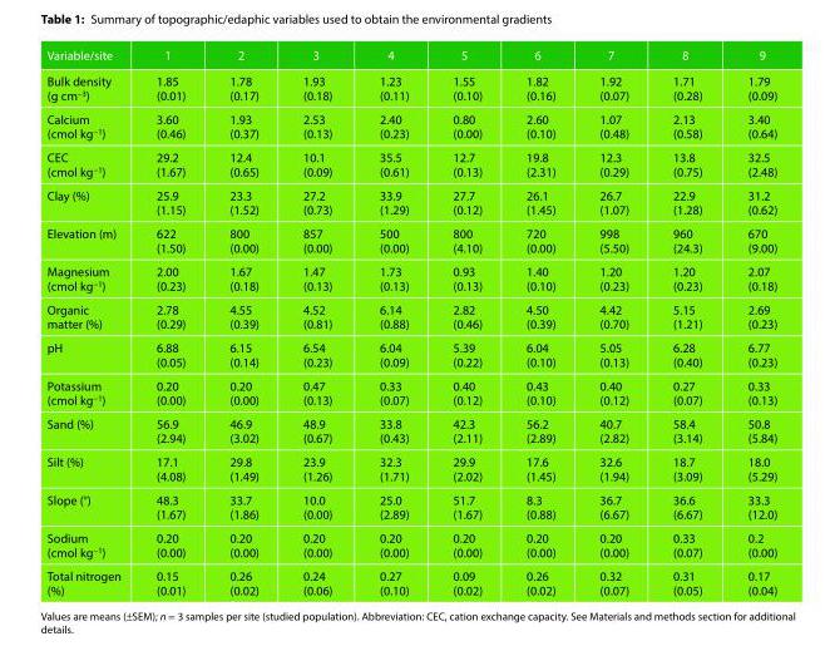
<table><thead><tr><td>Variable/site</td><td>1</td><td>2</td><td>3</td><td>4</td><td>5</td><td>6</td><td>7</td><td>8</td><td>9</td></tr></thead><tbody><tr><td>Bulk density (g cm<sup>−3</sup>)</td><td>1.85 (0.01)</td><td>1.78 (0.17)</td><td>1.93 (0.18)</td><td>1.23 (0.11)</td><td>1.55 (0.10)</td><td>1.82 (0.16)</td><td>1.92 (0.07)</td><td>1.71 (0.28)</td><td>1.79 (0.09)</td></tr><tr><td>Calcium (cmol kg<sup>−1</sup>)</td><td>3.60 (0.46)</td><td>1.93 (0.37)</td><td>2.53 (0.13)</td><td>2.40 (0.23)</td><td>0.80 (0.00)</td><td>2.60 (0.10)</td><td>1.07 (0.48)</td><td>2.13 (0.58)</td><td>3.40 (0.64)</td></tr><tr><td>CEC (cmol kg<sup>−1</sup>)</td><td>29.2 (1.67)</td><td>12.4 (0.65)</td><td>10.1 (0.09)</td><td>35.5 (0.61)</td><td>12.7 (0.13)</td><td>19.8 (2.31)</td><td>12.3 (0.29)</td><td>13.8 (0.75)</td><td>32.5 (2.48)</td></tr><tr><td>Clay (%)</td><td>25.9 (1.15)</td><td>23.3 (1.52)</td><td>27.2 (0.73)</td><td>33.9 (1.29)</td><td>27.7 (0.12)</td><td>26.1 (1.45)</td><td>26.7 (1.07)</td><td>22.9 (1.28)</td><td>31.2 (0.62)</td></tr><tr><td>Elevation (m)</td><td>622 (1.50)</td><td>800 (0.00)</td><td>857 (0.00)</td><td>500 (0.00)</td><td>800 (4.10)</td><td>720 (0.00)</td><td>998 (5.50)</td><td>960 (24.3)</td><td>670 (9.00)</td></tr><tr><td>Magnesium (cmol kg<sup>−1</sup>)</td><td>2.00 (0.23)</td><td>1.67 (0.18)</td><td>1.47 (0.13)</td><td>1.73 (0.13)</td><td>0.93 (0.13)</td><td>1.40 (0.10)</td><td>1.20 (0.23)</td><td>1.20 (0.23)</td><td>2.07 (0.18)</td></tr><tr><td>Organic matter (%)</td><td>2.78 (0.29)</td><td>4.55 (0.39)</td><td>4.52 (0.81)</td><td>6.14 (0.88)</td><td>2.82 (0.46)</td><td>4.50 (0.39)</td><td>4.42 (0.70)</td><td>5.15 (1.21)</td><td>2.69 (0.23)</td></tr><tr><td>pH</td><td>6.88 (0.05)</td><td>6.15 (0.14)</td><td>6.54 (0.23)</td><td>6.04 (0.09)</td><td>5.39 (0.22)</td><td>6.04 (0.10)</td><td>5.05 (0.13)</td><td>6.28 (0.40)</td><td>6.77 (0.23)</td></tr><tr><td>Potassium (cmol kg<sup>−1</sup>)</td><td>0.20 (0.00)</td><td>0.20 (0.00)</td><td>0.47 (0.13)</td><td>0.33 (0.07)</td><td>0.40 (0.12)</td><td>0.43 (0.10)</td><td>0.40 (0.12)</td><td>0.27 (0.07)</td><td>0.33 (0.13)</td></tr><tr><td>Sand (%)</td><td>56.9 (2.94)</td><td>46.9 (3.02)</td><td>48.9 (0.67)</td><td>33.8 (0.43)</td><td>42.3 (2.11)</td><td>56.2 (2.89)</td><td>40.7 (2.82)</td><td>58.4 (3.14)</td><td>50.8 (5.84)</td></tr><tr><td>Silt (%)</td><td>17.1 (4.08)</td><td>29.8 (1.49)</td><td>23.9 (1.26)</td><td>32.3 (1.71)</td><td>29.9 (2.02)</td><td>17.6 (1.45)</td><td>32.6 (1.94)</td><td>18.7 (3.09)</td><td>18.0 (5.29)</td></tr><tr><td>Slope (°)</td><td>48.3 (1.67)</td><td>33.7 (1.86)</td><td>10.0 (0.00)</td><td>25.0 (2.89)</td><td>51.7 (1.67)</td><td>8.3 (0.88)</td><td>36.7 (6.67)</td><td>36.6 (6.67)</td><td>33.3 (12.0)</td></tr><tr><td>Sodium (cmol kg<sup>−1</sup>)</td><td>0.20 (0.00)</td><td>0.20 (0.00)</td><td>0.20 (0.00)</td><td>0.20 (0.00)</td><td>0.20 (0.00)</td><td>0.20 (0.00)</td><td>0.20 (0.00)</td><td>0.33 (0.07)</td><td>0.2 (0.00)</td></tr><tr><td>Total nitrogen (%)</td><td>0.15 (0.01)</td><td>0.26 (0.02)</td><td>0.24 (0.06)</td><td>0.27 (0.10)</td><td>0.09 (0.02)</td><td>0.26 (0.02)</td><td>0.32 (0.07)</td><td>0.31 (0.05)</td><td>0.17 (0.04)</td></tr></tbody></table>